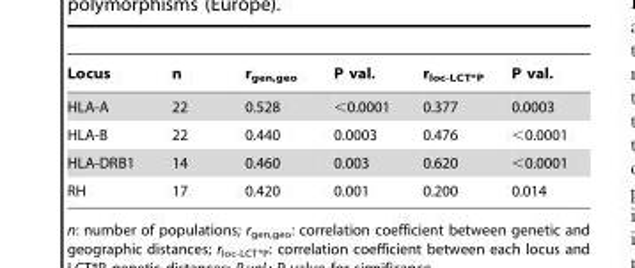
<table><thead><tr><td>Locus</td><td>n</td><td>r<sub>gen,geo</sub></td><td>P val.</td><td>r<sub>loc-LCT*P</sub></td><td>P val.</td></tr></thead><tbody><tr><td>HLA-A</td><td>22</td><td>0.528</td><td>&lt;0.0001</td><td>0.377</td><td>0.0003</td></tr><tr><td>HLA-B</td><td>22</td><td>0.440</td><td>0.0003</td><td>0.476</td><td>&lt;0.0001</td></tr><tr><td>HLA-DRB1</td><td>14</td><td>0.460</td><td>0.003</td><td>0.620</td><td>&lt;0.0001</td></tr><tr><td>RH</td><td>17</td><td>0.420</td><td>0.001</td><td>0.200</td><td>0.014</td></tr></tbody></table>